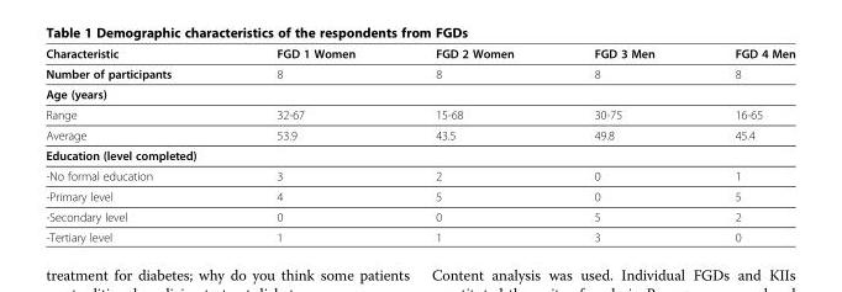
<table><thead><tr><td>Characteristic</td><td>FGD 1 Women</td><td>FGD 2 Women</td><td>FGD 3 Men</td><td>FGD 4 Men</td></tr></thead><tbody><tr><td>Number of participants</td><td>8</td><td>8</td><td>8</td><td>8</td></tr><tr><td colspan="5">Age (years)</td></tr><tr><td>Range</td><td>32-67</td><td>15-68</td><td>30-75</td><td>16-65</td></tr><tr><td>Average</td><td>53.9</td><td>43.5</td><td>49.8</td><td>45.4</td></tr><tr><td colspan="5">Education (level completed)</td></tr><tr><td>-No formal education</td><td>3</td><td>2</td><td>0</td><td>1</td></tr><tr><td>-Primary level</td><td>4</td><td>5</td><td>0</td><td>5</td></tr><tr><td>-Secondary level</td><td>0</td><td>0</td><td>5</td><td>2</td></tr><tr><td>-Tertiary level</td><td>1</td><td>1</td><td>3</td><td>0</td></tr></tbody></table>